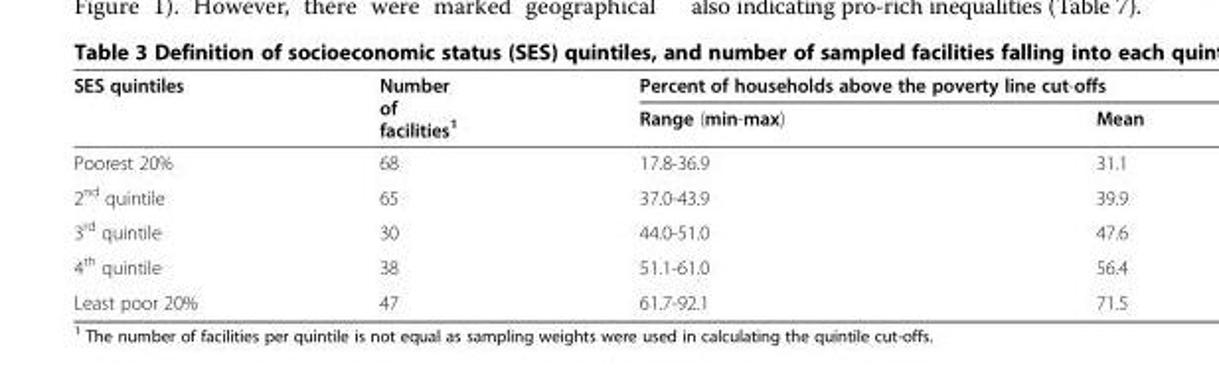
<table><thead><tr><td rowspan="2">SES quintiles</td><td rowspan="2">Number of facilities<sup>1</sup></td><td colspan="2">Percent of households above the poverty line cut-offs</td></tr><tr><td>Range (min-max)</td><td>Mean</td></tr></thead><tbody><tr><td>Poorest 20%</td><td>68</td><td>17.8-36.9</td><td>31.1</td></tr><tr><td>2<sup>nd</sup> quintile</td><td>65</td><td>37.0-43.9</td><td>39.9</td></tr><tr><td>3<sup>rd</sup> quintile</td><td>30</td><td>44.0-51.0</td><td>47.6</td></tr><tr><td>4<sup>th</sup> quintile</td><td>38</td><td>51.1-61.0</td><td>56.4</td></tr><tr><td>Least poor 20%</td><td>47</td><td>61.7-92.1</td><td>71.5</td></tr></tbody></table>